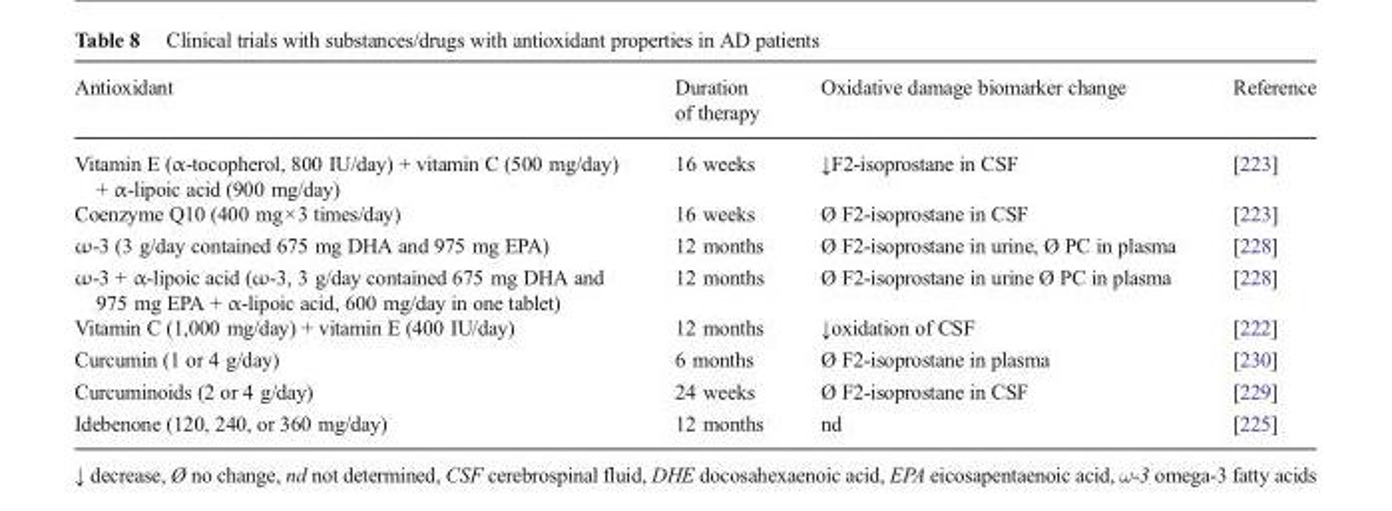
<table><thead><tr><td>Antioxidant</td><td>Duration of therapy</td><td>Oxidative damage biomarker change</td><td>Reference</td></tr></thead><tbody><tr><td>Vitamin E (α-tocopherol, 800 IU/day) + vitamin C (500 mg/day) + α-lipoic acid (900 mg/day)</td><td>16 weeks</td><td>↓F2-isoprostane in CSF</td><td>[223]</td></tr><tr><td>Coenzyme Q10 (400 mg×3 times/day)</td><td>16 weeks</td><td>Ø F2-isoprostane in CSF</td><td>[223]</td></tr><tr><td>ω-3 (3 g/day contained 675 mg DHA and 975 mg EPA)</td><td>12 months</td><td>Ø F2-isoprostane in urine, Ø PC in plasma</td><td>[228]</td></tr><tr><td>ω-3 + α-lipoic acid (ω-3, 3 g/day contained 675 mg DHA and 975 mg EPA + α-lipoic acid, 600 mg/day in one tablet)</td><td>12 months</td><td>Ø F2-isoprostane in urine Ø PC in plasma</td><td>[228]</td></tr><tr><td>Vitamin C (1,000 mg/day) + vitamin E (400 IU/day)</td><td>12 months</td><td>↓oxidation of CSF</td><td>[222]</td></tr><tr><td>Curcumin (1 or 4 g/day)</td><td>6 months</td><td>Ø F2-isoprostane in plasma</td><td>[230]</td></tr><tr><td>Curcuminoids (2 or 4 g/day)</td><td>24 weeks</td><td>Ø F2-isoprostane in CSF</td><td>[229]</td></tr><tr><td>Idebenone (120, 240, or 360 mg/day)</td><td>12 months</td><td>nd</td><td>[225]</td></tr></tbody></table>